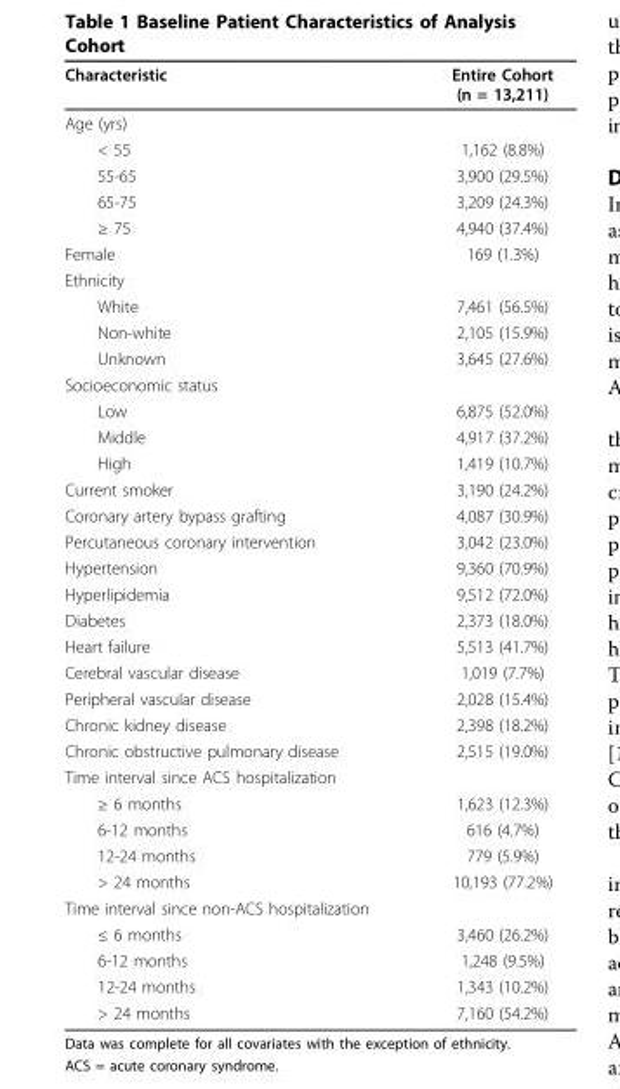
<table><thead><tr><td>Characteristic</td><td>Entire Cohort (n = 13,211)</td></tr></thead><tbody><tr><td colspan="2">Age (yrs)</td></tr><tr><td>&lt; 55</td><td>1,162 (8.8%)</td></tr><tr><td>55-65</td><td>3,900 (29.5%)</td></tr><tr><td>65-75</td><td>3,209 (24.3%)</td></tr><tr><td>≥ 75</td><td>4,940 (37.4%)</td></tr><tr><td>Female</td><td>169 (1.3%)</td></tr><tr><td colspan="2">Ethnicity</td></tr><tr><td>White</td><td>7,461 (56.5%)</td></tr><tr><td>Non-white</td><td>2,105 (15.9%)</td></tr><tr><td>Unknown</td><td>3,645 (27.6%)</td></tr><tr><td colspan="2">Socioeconomic status</td></tr><tr><td>Low</td><td>6,875 (52.0%)</td></tr><tr><td>Middle</td><td>4,917 (37.2%)</td></tr><tr><td>High</td><td>1,419 (10.7%)</td></tr><tr><td>Current smoker</td><td>3,190 (24.2%)</td></tr><tr><td>Coronary artery bypass grafting</td><td>4,087 (30.9%)</td></tr><tr><td>Percutaneous coronary intervention</td><td>3,042 (23.0%)</td></tr><tr><td>Hypertension</td><td>9,360 (70.9%)</td></tr><tr><td>Hyperlipidemia</td><td>9,512 (72.0%)</td></tr><tr><td>Diabetes</td><td>2,373 (18.0%)</td></tr><tr><td>Heart failure</td><td>5,513 (41.7%)</td></tr><tr><td>Cerebral vascular disease</td><td>1,019 (7.7%)</td></tr><tr><td>Peripheral vascular disease</td><td>2,028 (15.4%)</td></tr><tr><td>Chronic kidney disease</td><td>2,398 (18.2%)</td></tr><tr><td>Chronic obstructive pulmonary disease</td><td>2,515 (19.0%)</td></tr><tr><td colspan="2">Time interval since ACS hospitalization</td></tr><tr><td>≥ 6 months</td><td>1,623 (12.3%)</td></tr><tr><td>6-12 months</td><td>616 (4.7%)</td></tr><tr><td>12-24 months</td><td>779 (5.9%)</td></tr><tr><td>&gt; 24 months</td><td>10,193 (77.2%)</td></tr><tr><td colspan="2">Time interval since non-ACS hospitalization</td></tr><tr><td>≤ 6 months</td><td>3,460 (26.2%)</td></tr><tr><td>6-12 months</td><td>1,248 (9.5%)</td></tr><tr><td>12-24 months</td><td>1,343 (10.2%)</td></tr><tr><td>&gt; 24 months</td><td>7,160 (54.2%)</td></tr></tbody></table>